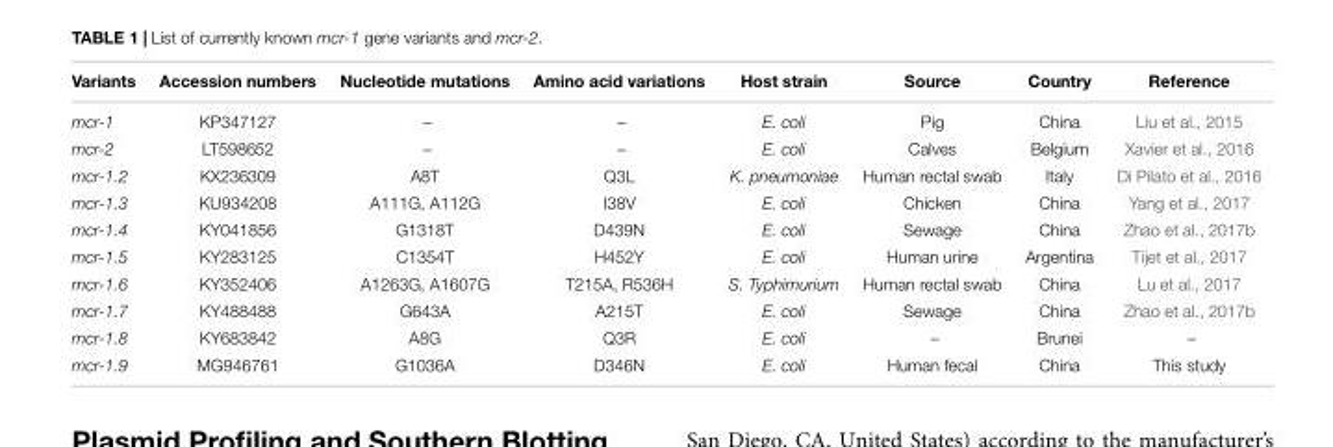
<table><thead><tr><td>Variants</td><td>Accession numbers</td><td>Nucleotide mutations</td><td>Amino acid variations</td><td>Host strain</td><td>Source</td><td>Country</td><td>Reference</td></tr></thead><tbody><tr><td>mcr-1</td><td>KP347127</td><td>–</td><td>–</td><td>E. coli</td><td>Pig</td><td>China</td><td>Liu et al., 2015</td></tr><tr><td>mcr-2</td><td>LT598652</td><td>–</td><td>–</td><td>E. coli</td><td>Calves</td><td>Belgium</td><td>Xavier et al., 2016</td></tr><tr><td>mcr-1.2</td><td>KX236309</td><td>A8T</td><td>Q3L</td><td>K. pneumoniae</td><td>Human rectal swab</td><td>Italy</td><td>Di Pilato et al., 2016</td></tr><tr><td>mcr-1.3</td><td>KU934208</td><td>A111G, A112G</td><td>I38V</td><td>E. coli</td><td>Chicken</td><td>China</td><td>Yang et al., 2017</td></tr><tr><td>mcr-1.4</td><td>KY041856</td><td>G1318T</td><td>D439N</td><td>E. coli</td><td>Sewage</td><td>China</td><td>Zhao et al., 2017b</td></tr><tr><td>mcr-1.5</td><td>KY283125</td><td>C1354T</td><td>H452Y</td><td>E. coli</td><td>Human urine</td><td>Argentina</td><td>Tijet et al., 2017</td></tr><tr><td>mcr-1.6</td><td>KY352406</td><td>A1263G, A1607G</td><td>T215A, R536H</td><td>S. Typhimurium</td><td>Human rectal swab</td><td>China</td><td>Lu et al., 2017</td></tr><tr><td>mcr-1.7</td><td>KY488488</td><td>G643A</td><td>A215T</td><td>E. coli</td><td>Sewage</td><td>China</td><td>Zhao et al., 2017b</td></tr><tr><td>mcr-1.8</td><td>KY683842</td><td>A8G</td><td>Q3R</td><td>E. coli</td><td>–</td><td>Brunei</td><td>–</td></tr><tr><td>mcr-1.9</td><td>MG946761</td><td>G1036A</td><td>D346N</td><td>E. coli</td><td>Human fecal</td><td>China</td><td>This study</td></tr></tbody></table>